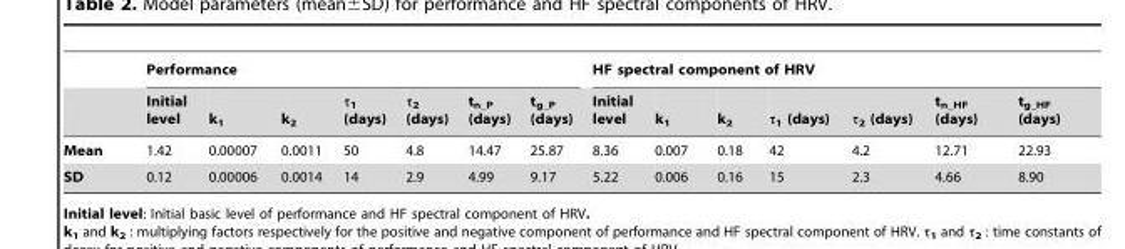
<table><thead><tr><td rowspan="2"></td><td colspan="7">Performance</td><td colspan="7">HF spectral component of HRV</td></tr><tr><td>Initial level</td><td>k<sub>1</sub></td><td>k<sub>2</sub></td><td>τ<sub>1</sub> (days)</td><td>τ<sub>2</sub> (days)</td><td>t<sub>n_P</sub> (days)</td><td>t<sub>g_P</sub> (days)</td><td>Initial level</td><td>k<sub>1</sub></td><td>k<sub>2</sub></td><td>τ<sub>1</sub> (days)</td><td>τ<sub>2</sub> (days)</td><td>t<sub>n_HF</sub> (days)</td><td>t<sub>g_HF</sub> (days)</td></tr></thead><tbody><tr><td>Mean</td><td>1.42</td><td>0.00007</td><td>0.0011</td><td>50</td><td>4.8</td><td>14.47</td><td>25.87</td><td>8.36</td><td>0.007</td><td>0.18</td><td>42</td><td>4.2</td><td>12.71</td><td>22.93</td></tr><tr><td>SD</td><td>0.12</td><td>0.00006</td><td>0.0014</td><td>14</td><td>2.9</td><td>4.99</td><td>9.17</td><td>5.22</td><td>0.006</td><td>0.16</td><td>15</td><td>2.3</td><td>4.66</td><td>8.90</td></tr></tbody></table>